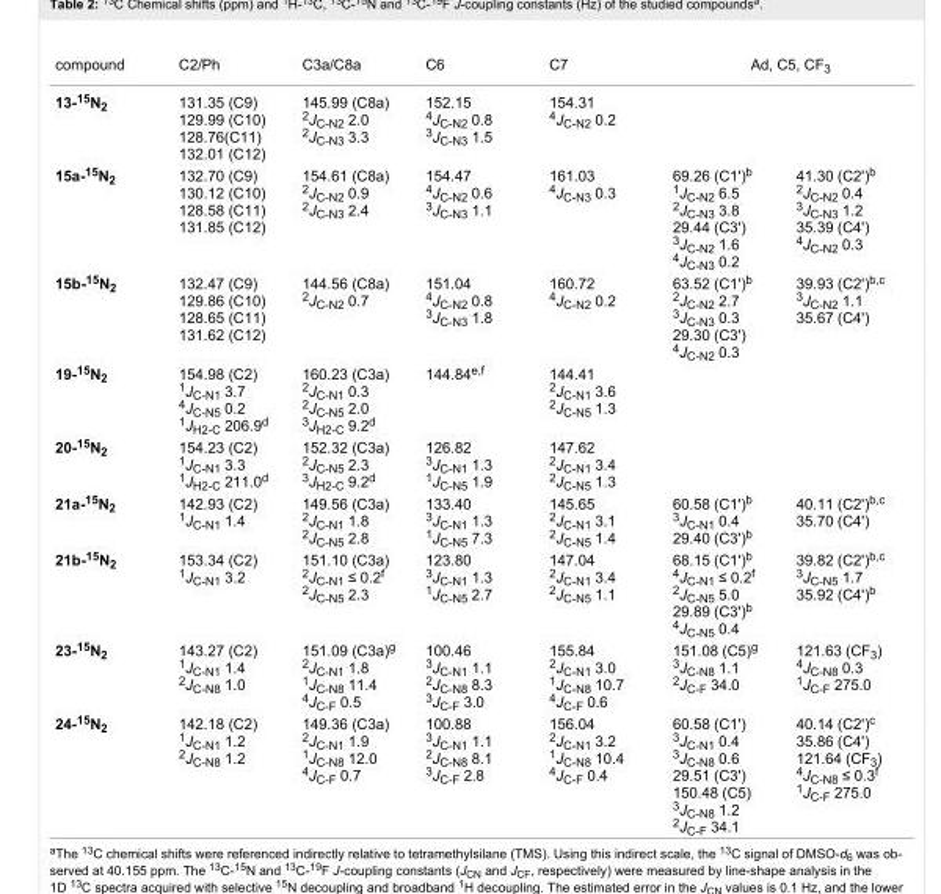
<table><tbody><tr><td>compound</td><td>C2/Ph</td><td>C3a/C8a</td><td>C6</td><td>C7</td><td colspan="2">Ad, C5, CF<sub>3</sub></td></tr><tr><td>13-<sup>15</sup>N<sub>2</sub></td><td>131.35 (C9) 129.99 (C10) 128.76(C11) 132.01 (C12)</td><td>145.99 (C8a) <sup>2</sup>J<sub>C-N2</sub> 2.0 <sup>2</sup>J<sub>C-N3</sub> 3.3</td><td>152.15 <sup>4</sup>J<sub>C-N2</sub> 0.8 <sup>3</sup>J<sub>C-N3</sub> 1.5</td><td>154.31 <sup>4</sup>J<sub>C-N2</sub> 0.2</td><td></td><td></td></tr><tr><td>15a-<sup>15</sup>N<sub>2</sub></td><td>132.70 (C9) 130.12 (C10) 128.58 (C11) 131.85 (C12)</td><td>154.61 (C8a) <sup>2</sup>J<sub>C-N2</sub> 0.9 <sup>2</sup>J<sub>C-N3</sub> 2.4</td><td>154.47 <sup>4</sup>J<sub>C-N2</sub> 0.6 <sup>3</sup>J<sub>C-N3</sub> 1.1</td><td>161.03 <sup>4</sup>J<sub>C-N3</sub> 0.3</td><td>69.26 (C1&#x27;)<sup>b 1</sup>J<sub>C-N2</sub> 6.5 <sup>2</sup>J<sub>C-N3</sub> 3.8 29.44 (C3&#x27;) <sup>3</sup>J<sub>C-N2</sub> 1.6 <sup>4</sup>J<sub>C-N3</sub> 0.2</td><td>41.30 (C2&#x27;)<sup>b 2</sup>J<sub>C-N2</sub> 0.4 <sup>3</sup>J<sub>C-N3</sub> 1.2 35.39 (C4&#x27;) <sup>4</sup>J<sub>C-N2</sub> 0.3</td></tr><tr><td>15b-<sup>15</sup>N<sub>2</sub></td><td>132.47 (C9) 129.86 (C10) 128.65 (C11) 131.62 (C12)</td><td>144.56 (C8a) <sup>2</sup>J<sub>C-N2</sub> 0.7</td><td>151.04 <sup>4</sup>J<sub>C-N2</sub> 0.8 <sup>3</sup>J<sub>C-N3</sub> 1.8</td><td>160.72 <sup>4</sup>J<sub>C-N2</sub> 0.2</td><td>63.52 (C1&#x27;)<sup>b 2</sup>J<sub>C-N2</sub> 2.7 <sup>3</sup>J<sub>C-N3</sub> 0.3 29.30 (C3&#x27;) <sup>4</sup>J<sub>C-N2</sub> 0.3</td><td>39.93 (C2&#x27;)<sup>b,c 3</sup>J<sub>C-N2</sub> 1.1 35.67 (C4&#x27;)</td></tr><tr><td>19-<sup>15</sup>N<sub>2</sub></td><td>154.98 (C2) <sup>1</sup>J<sub>C-N1</sub> 3.7 <sup>4</sup>J<sub>C-N5</sub> 0.2 <sup>1</sup>J<sub>H2-C</sub> 206.9<sup>d</sup></td><td>160.23 (C3a) <sup>2</sup>J<sub>C-N1</sub> 0.3 <sup>2</sup>J<sub>C-N5</sub> 2.0 <sup>3</sup>J<sub>H2-C</sub> 9.2<sup>d</sup></td><td>144.84<sup>e,f</sup></td><td>144.41 <sup>2</sup>J<sub>C-N1</sub> 3.6 <sup>2</sup>J<sub>C-N5</sub> 1.3</td><td></td><td></td></tr><tr><td>20-<sup>15</sup>N<sub>2</sub></td><td>154.23 (C2) <sup>1</sup>J<sub>C-N1</sub> 3.3 <sup>1</sup>J<sub>H2-C</sub> 211.0<sup>d</sup></td><td>152.32 (C3a) <sup>2</sup>J<sub>C-N5</sub> 2.3 <sup>3</sup>J<sub>H2-C</sub> 9.2<sup>d</sup></td><td>126.82 <sup>3</sup>J<sub>C-N1</sub> 1.3 <sup>1</sup>J<sub>C-N5</sub> 1.9</td><td>147.62 <sup>2</sup>J<sub>C-N1</sub> 3.4 <sup>2</sup>J<sub>C-N5</sub> 1.3</td><td></td><td></td></tr><tr><td>21a-<sup>15</sup>N<sub>2</sub></td><td>142.93 (C2) <sup>1</sup>J<sub>C-N1</sub> 1.4</td><td>149.56 (C3a) <sup>2</sup>J<sub>C-N1</sub> 1.8 <sup>2</sup>J<sub>C-N5</sub> 2.8</td><td>133.40 <sup>3</sup>J<sub>C-N1</sub> 1.3 <sup>1</sup>J<sub>C-N5</sub> 7.3</td><td>145.65 <sup>2</sup>J<sub>C-N1</sub> 3.1 <sup>2</sup>J<sub>C-N5</sub> 1.4</td><td>60.58 (C1&#x27;)<sup>b 3</sup>J<sub>C-N1</sub> 0.4 29.40 (C3&#x27;)<sup>b</sup></td><td>40.11 (C2&#x27;)<sup>b,c</sup> 35.70 (C4&#x27;)</td></tr><tr><td>21b-<sup>15</sup>N<sub>2</sub></td><td>153.34 (C2) <sup>1</sup>J<sub>C-N1</sub> 3.2</td><td>151.10 (C3a) <sup>2</sup>J<sub>C-N1</sub> ≤ 0.2<sup>f 2</sup>J<sub>C-N5</sub> 2.3</td><td>123.80 <sup>3</sup>J<sub>C-N1</sub> 1.3 <sup>1</sup>J<sub>C-N5</sub> 2.7</td><td>147.04 <sup>2</sup>J<sub>C-N1</sub> 3.4 <sup>2</sup>J<sub>C-N5</sub> 1.1</td><td>68.15 (C1&#x27;)<sup>b 4</sup>J<sub>C-N1</sub> ≤ 0.2<sup>f 2</sup>J<sub>C-N5</sub> 5.0 29.89 (C3&#x27;)<sup>b 4</sup>J<sub>C-N5</sub> 0.4</td><td>39.82 (C2&#x27;)<sup>b,c 3</sup>J<sub>C-N5</sub> 1.7 35.92 (C4&#x27;)<sup>b</sup></td></tr><tr><td>23-<sup>15</sup>N<sub>2</sub></td><td>143.27 (C2) <sup>1</sup>J<sub>C-N1</sub> 1.4 <sup>2</sup>J<sub>C-N8</sub> 1.0</td><td>151.09 (C3a)<sup>g 2</sup>J<sub>C-N1</sub> 1.8 <sup>1</sup>J<sub>C-N8</sub> 11.4 <sup>4</sup>J<sub>C-F</sub> 0.5</td><td>100.46 <sup>3</sup>J<sub>C-N1</sub> 1.1 <sup>2</sup>J<sub>C-N8</sub> 8.3 <sup>3</sup>J<sub>C-F</sub> 3.0</td><td>155.84 <sup>2</sup>J<sub>C-N1</sub> 3.0 <sup>1</sup>J<sub>C-N8</sub> 10.7 <sup>4</sup>J<sub>C-F</sub> 0.6</td><td>151.08 (C5)<sup>g 3</sup>J<sub>C-N8</sub> 1.1 <sup>2</sup>J<sub>C-F</sub> 34.0</td><td>121.63 (CF<sub>3</sub>) <sup>4</sup>J<sub>C-N8</sub> 0.3 <sup>1</sup>J<sub>C-F</sub> 275.0</td></tr><tr><td>24-<sup>15</sup>N<sub>2</sub></td><td>142.18 (C2) <sup>1</sup>J<sub>C-N1</sub> 1.2 <sup>2</sup>J<sub>C-N8</sub> 1.2</td><td>149.36 (C3a) <sup>2</sup>J<sub>C-N1</sub> 1.9 <sup>1</sup>J<sub>C-N8</sub> 12.0 <sup>4</sup>J<sub>C-F</sub> 0.7</td><td>100.88 <sup>3</sup>J<sub>C-N1</sub> 1.1 <sup>2</sup>J<sub>C-N8</sub> 8.1 <sup>3</sup>J<sub>C-F</sub> 2.8</td><td>156.04 <sup>2</sup>J<sub>C-N1</sub> 3.2 <sup>1</sup>J<sub>C-N8</sub> 10.4 <sup>4</sup>J<sub>C-F</sub> 0.4</td><td>60.58 (C1&#x27;) <sup>3</sup>J<sub>C-N1</sub> 0.4 <sup>3</sup>J<sub>C-N8</sub> 0.6 29.51 (C3&#x27;) 150.48 (C5) <sup>3</sup>J<sub>C-N8</sub> 1.2 <sup>2</sup>J<sub>C-F</sub> 34.1</td><td>40.14 (C2&#x27;)<sup>c</sup> 35.86 (C4&#x27;) 121.64 (CF<sub>3</sub>) <sup>4</sup>J<sub>C-N8</sub> ≤ 0.3<sup>f 1</sup>J<sub>C-F</sub> 275.0</td></tr></tbody></table>